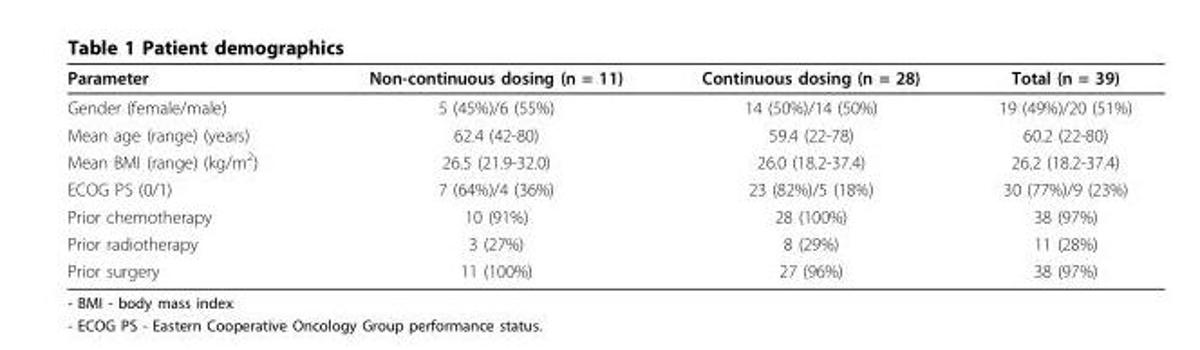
<table><thead><tr><td>Parameter</td><td>Non-continuous dosing (n = 11)</td><td>Continuous dosing (n = 28)</td><td>Total (n = 39)</td></tr></thead><tbody><tr><td>Gender (female/male)</td><td>5 (45%)/6 (55%)</td><td>14 (50%)/14 (50%)</td><td>19 (49%)/20 (51%)</td></tr><tr><td>Mean age (range) (years)</td><td>62.4 (42-80)</td><td>59.4 (22-78)</td><td>60.2 (22-80)</td></tr><tr><td>Mean BMI (range) (kg/m<sup>2</sup>)</td><td>26.5 (21.9-32.0)</td><td>26.0 (18.2-37.4)</td><td>26.2 (18.2-37.4)</td></tr><tr><td>ECOG PS (0/1)</td><td>7 (64%)/4 (36%)</td><td>23 (82%)/5 (18%)</td><td>30 (77%)/9 (23%)</td></tr><tr><td>Prior chemotherapy</td><td>10 (91%)</td><td>28 (100%)</td><td>38 (97%)</td></tr><tr><td>Prior radiotherapy</td><td>3 (27%)</td><td>8 (29%)</td><td>11 (28%)</td></tr><tr><td>Prior surgery</td><td>11 (100%)</td><td>27 (96%)</td><td>38 (97%)</td></tr></tbody></table>